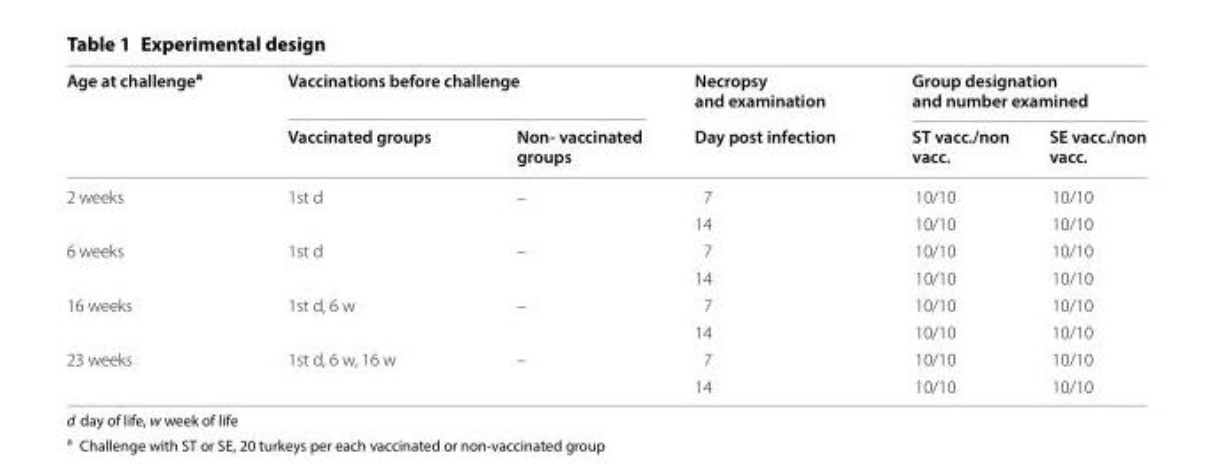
<table><thead><tr><td rowspan="2">Age at challenge<sup>a</sup></td><td colspan="2">Vaccinations before challenge</td><td rowspan="2">Necropsy and examination Day post infection</td><td colspan="2">Group designation and number examined</td></tr><tr><td>Vaccinated groups</td><td>Non- vaccinated groups</td><td>ST vacc./non vacc.</td><td>SE vacc./non vacc.</td></tr></thead><tbody><tr><td rowspan="2">2 weeks</td><td rowspan="2">1st d</td><td rowspan="2">–</td><td>7</td><td>10/10</td><td>10/10</td></tr><tr><td>14</td><td>10/10</td><td>10/10</td></tr><tr><td rowspan="2">6 weeks</td><td rowspan="2">1st d</td><td rowspan="2">–</td><td>7</td><td>10/10</td><td>10/10</td></tr><tr><td>14</td><td>10/10</td><td>10/10</td></tr><tr><td rowspan="2">16 weeks</td><td rowspan="2">1st d, 6 w</td><td rowspan="2">–</td><td>7</td><td>10/10</td><td>10/10</td></tr><tr><td>14</td><td>10/10</td><td>10/10</td></tr><tr><td rowspan="2">23 weeks</td><td rowspan="2">1st d, 6 w, 16 w</td><td rowspan="2">–</td><td>7</td><td>10/10</td><td>10/10</td></tr><tr><td>14</td><td>10/10</td><td>10/10</td></tr></tbody></table>